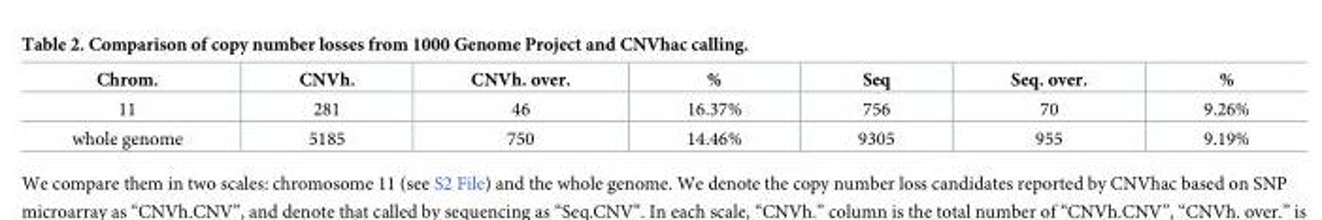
<table><thead><tr><td>Chrom.</td><td>CNVh.</td><td>CNVh. over.</td><td>%</td><td>Seq</td><td>Seq. over.</td><td>%</td></tr></thead><tbody><tr><td>11</td><td>281</td><td>46</td><td>16.37%</td><td>756</td><td>70</td><td>9.26%</td></tr><tr><td>whole genome</td><td>5185</td><td>750</td><td>14.46%</td><td>9305</td><td>955</td><td>9.19%</td></tr></tbody></table>